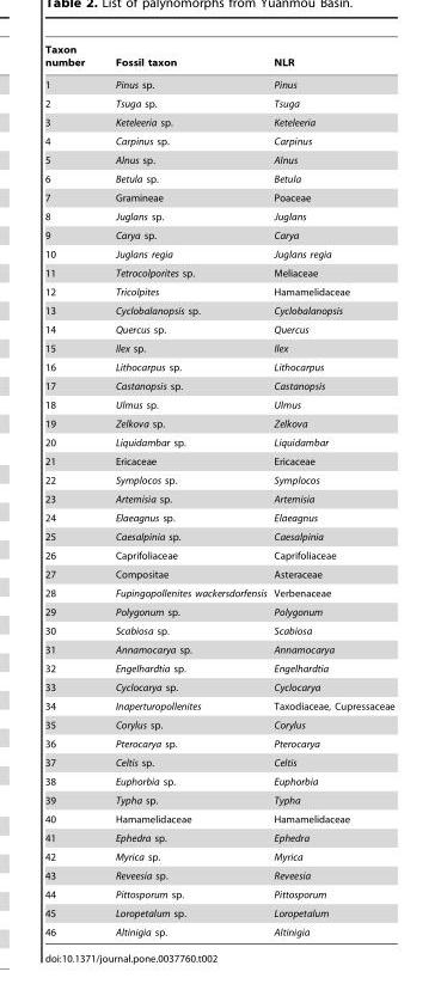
<table><thead><tr><td>Taxon number</td><td>Fossil taxon</td><td>NLR</td></tr></thead><tbody><tr><td>1</td><td>Pinus sp.</td><td>Pinus</td></tr><tr><td>2</td><td>Tsuga sp.</td><td>Tsuga</td></tr><tr><td>3</td><td>Keteleeria sp.</td><td>Keteleeria</td></tr><tr><td>4</td><td>Carpinus sp.</td><td>Carpinus</td></tr><tr><td>5</td><td>Alnus sp.</td><td>Alnus</td></tr><tr><td>6</td><td>Betula sp.</td><td>Betula</td></tr><tr><td>7</td><td>Gramineae</td><td>Poaceae</td></tr><tr><td>8</td><td>Juglans sp.</td><td>Juglans</td></tr><tr><td>9</td><td>Carya sp.</td><td>Carya</td></tr><tr><td>10</td><td>Juglans regia</td><td>Juglans regia</td></tr><tr><td>11</td><td>Tetrocolporites sp.</td><td>Meliaceae</td></tr><tr><td>12</td><td>Tricolpites</td><td>Hamamelidaceae</td></tr><tr><td>13</td><td>Cyclobalanopsis sp.</td><td>Cyclobalanopsis</td></tr><tr><td>14</td><td>Quercus sp.</td><td>Quercus</td></tr><tr><td>15</td><td>Ilex sp.</td><td>Ilex</td></tr><tr><td>16</td><td>Lithocarpus sp.</td><td>Lithocarpus</td></tr><tr><td>17</td><td>Castanopsis sp.</td><td>Castanopsis</td></tr><tr><td>18</td><td>Ulmus sp.</td><td>Ulmus</td></tr><tr><td>19</td><td>Zelkova sp.</td><td>Zelkova</td></tr><tr><td>20</td><td>Liquidambar sp.</td><td>Liquidambar</td></tr><tr><td>21</td><td>Ericaceae</td><td>Ericaceae</td></tr><tr><td>22</td><td>Symplocos sp.</td><td>Symplocos</td></tr><tr><td>23</td><td>Artemisia sp.</td><td>Artemisia</td></tr><tr><td>24</td><td>Elaeagnus sp.</td><td>Elaeagnus</td></tr><tr><td>25</td><td>Caesalpinia sp.</td><td>Caesalpinia</td></tr><tr><td>26</td><td>Caprifoliaceae</td><td>Caprifoliaceae</td></tr><tr><td>27</td><td>Compositae</td><td>Asteraceae</td></tr><tr><td>28</td><td>Fupingopollenites wackersdorfensis</td><td>Verbenaceae</td></tr><tr><td>29</td><td>Polygonum sp.</td><td>Polygonum</td></tr><tr><td>30</td><td>Scabiosa sp.</td><td>Scabiosa</td></tr><tr><td>31</td><td>Annamocarya sp.</td><td>Annamocarya</td></tr><tr><td>32</td><td>Engelhardtia sp.</td><td>Engelhardtia</td></tr><tr><td>33</td><td>Cyclocarya sp.</td><td>Cyclocarya</td></tr><tr><td>34</td><td>Inaperturopollenites</td><td>Taxodiaceae, Cupressaceae</td></tr><tr><td>35</td><td>Corylus sp.</td><td>Corylus</td></tr><tr><td>36</td><td>Pterocarya sp.</td><td>Pterocarya</td></tr><tr><td>37</td><td>Celtis sp.</td><td>Celtis</td></tr><tr><td>38</td><td>Euphorbia sp.</td><td>Euphorbia</td></tr><tr><td>39</td><td>Typha sp.</td><td>Typha</td></tr><tr><td>40</td><td>Hamamelidaceae</td><td>Hamamelidaceae</td></tr><tr><td>41</td><td>Ephedra sp.</td><td>Ephedra</td></tr><tr><td>42</td><td>Myrica sp.</td><td>Myrica</td></tr><tr><td>43</td><td>Reveesia sp.</td><td>Reveesia</td></tr><tr><td>44</td><td>Pittosporum sp.</td><td>Pittosporum</td></tr><tr><td>45</td><td>Loropetalum sp.</td><td>Loropetalum</td></tr><tr><td>46</td><td>Altinigia sp.</td><td>Altinigia</td></tr></tbody></table>